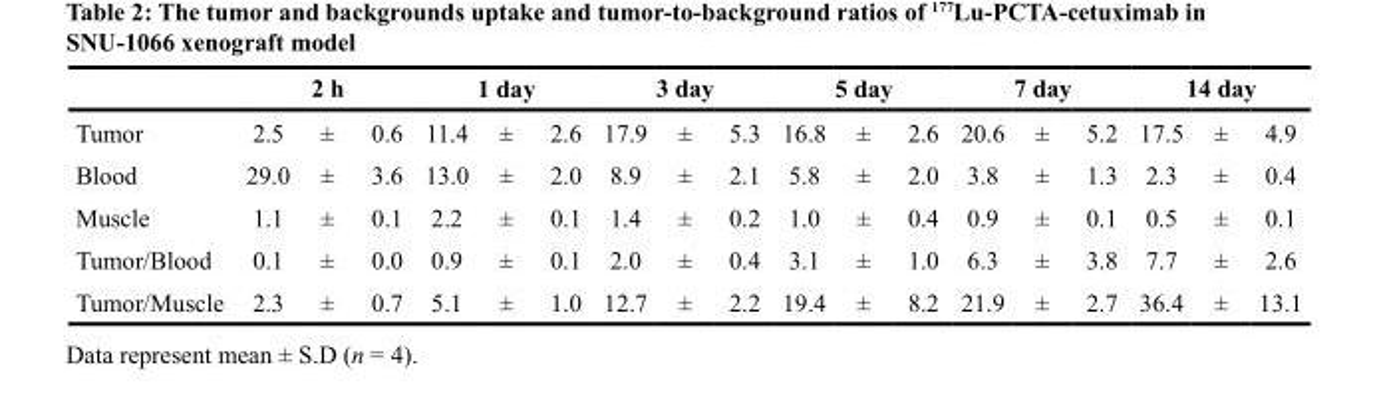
<table><thead><tr><td rowspan="2">Tumor</td><td colspan="3">2 h</td><td colspan="3">1 day</td><td colspan="3">3 day</td><td colspan="3">5 day</td><td colspan="3">7 day</td><td colspan="3">14 day</td></tr><tr><td>2.5</td><td>±</td><td>0.6</td><td>11.4</td><td>±</td><td>2.6</td><td>17.9</td><td>±</td><td>5.3</td><td>16.8</td><td>±</td><td>2.6</td><td>20.6</td><td>±</td><td>5.2</td><td>17.5</td><td>±</td><td>4.9</td></tr></thead><tbody><tr><td>Blood</td><td>29.0</td><td>±</td><td>3.6</td><td>13.0</td><td>±</td><td>2.0</td><td>8.9</td><td>±</td><td>2.1</td><td>5.8</td><td>±</td><td>2.0</td><td>3.8</td><td>±</td><td>1.3</td><td>2.3</td><td>±</td><td>0.4</td></tr><tr><td>Muscle</td><td>1.1</td><td>±</td><td>0.1</td><td>2.2</td><td>±</td><td>0.1</td><td>1.4</td><td>±</td><td>0.2</td><td>1.0</td><td>±</td><td>0.4</td><td>0.9</td><td>±</td><td>0.1</td><td>0.5</td><td>±</td><td>0.1</td></tr><tr><td>Tumor/Blood</td><td>0.1</td><td>±</td><td>0.0</td><td>0.9</td><td>±</td><td>0.1</td><td>2.0</td><td>±</td><td>0.4</td><td>3.1</td><td>±</td><td>1.0</td><td>6.3</td><td>±</td><td>3.8</td><td>7.7</td><td>±</td><td>2.6</td></tr><tr><td>Tumor/Muscle</td><td>2.3</td><td>±</td><td>0.7</td><td>5.1</td><td>±</td><td>1.0</td><td>12.7</td><td>±</td><td>2.2</td><td>19.4</td><td>±</td><td>8.2</td><td>21.9</td><td>±</td><td>2.7</td><td>36.4</td><td>±</td><td>13.1</td></tr></tbody></table>